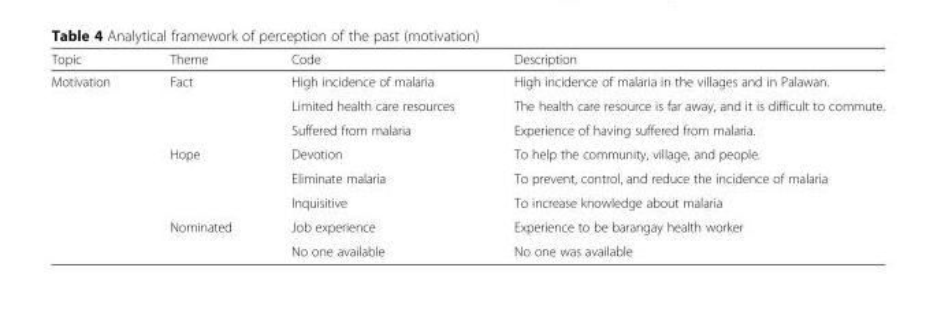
<table><thead><tr><td>Topic</td><td>Theme</td><td>Code</td><td>Description</td></tr></thead><tbody><tr><td rowspan="8">Motivation</td><td rowspan="3">Fact</td><td>High incidence of malaria</td><td>High incidence of malaria in the villages and in Palawan.</td></tr><tr><td>Limited health care resources</td><td>The health care resource is far away, and it is difficult to commute.</td></tr><tr><td>Suffered from malaria</td><td>Experience of having suffered from malaria.</td></tr><tr><td rowspan="3">Hope</td><td>Devotion</td><td>To help the community, village, and people.</td></tr><tr><td>Eliminate malaria</td><td>To prevent, control, and reduce the incidence of malaria</td></tr><tr><td>Inquisitive</td><td>To increase knowledge about malaria</td></tr><tr><td rowspan="2">Nominated</td><td>Job experience</td><td>Experience to be barangay health worker</td></tr><tr><td>No one available</td><td>No one was available</td></tr></tbody></table>